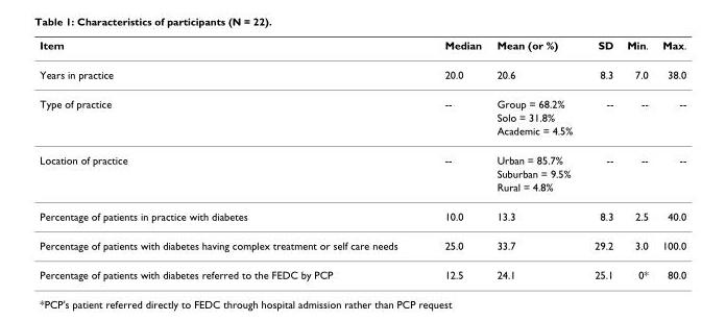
<table><thead><tr><td>Item</td><td>Median</td><td>Mean (or %)</td><td>SD</td><td>Min.</td><td>Max.</td></tr></thead><tbody><tr><td>Years in practice</td><td>20.0</td><td>20.6</td><td>8.3</td><td>7.0</td><td>38.0</td></tr><tr><td rowspan="3">Type of practice</td><td>--</td><td>Group = 68.2%</td><td>--</td><td>--</td><td>--</td></tr><tr><td></td><td>Solo = 31.8%</td><td></td><td></td><td></td></tr><tr><td></td><td>Academic = 4.5%</td><td></td><td></td><td></td></tr><tr><td rowspan="3">Location of practice</td><td>--</td><td>Urban = 85.7%</td><td>--</td><td>--</td><td>--</td></tr><tr><td></td><td>Suburban = 9.5%</td><td></td><td></td><td></td></tr><tr><td></td><td>Rural = 4.8%</td><td></td><td></td><td></td></tr><tr><td>Percentage of patients in practice with diabetes</td><td>10.0</td><td>13.3</td><td>8.3</td><td>2.5</td><td>40.0</td></tr><tr><td>Percentage of patients with diabetes having complex treatment or self care needs</td><td>25.0</td><td>33.7</td><td>29.2</td><td>3.0</td><td>100.0</td></tr><tr><td>Percentage of patients with diabetes referred to the FEDC by PCP</td><td>12.5</td><td>24.1</td><td>25.1</td><td>0*</td><td>80.0</td></tr></tbody></table>